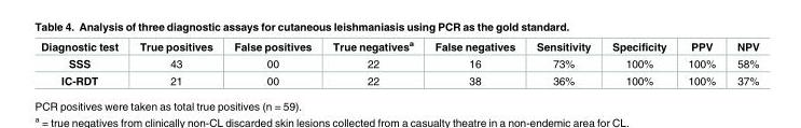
<table><thead><tr><td>Diagnostic test</td><td>True positives</td><td>False positives</td><td>True negatives<sup>a</sup></td><td>False negatives</td><td>Sensitivity</td><td>Specificity</td><td>PPV</td><td>NPV</td></tr></thead><tbody><tr><td>SSS</td><td>43</td><td>00</td><td>22</td><td>16</td><td>73%</td><td>100%</td><td>100%</td><td>58%</td></tr><tr><td>IC-RDT</td><td>21</td><td>00</td><td>22</td><td>38</td><td>36%</td><td>100%</td><td>100%</td><td>37%</td></tr></tbody></table>